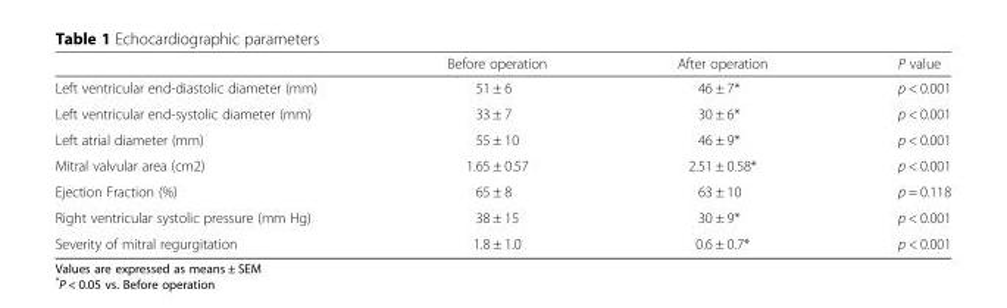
<table><thead><tr><td></td><td>Before operation</td><td>After operation</td><td>P value</td></tr></thead><tbody><tr><td>Left ventricular end-diastolic diameter (mm)</td><td>51 ± 6</td><td>46 ± 7*</td><td>p &lt; 0.001</td></tr><tr><td>Left ventricular end-systolic diameter (mm)</td><td>33 ± 7</td><td>30 ± 6*</td><td>p &lt; 0.001</td></tr><tr><td>Left atrial diameter (mm)</td><td>55 ± 10</td><td>46 ± 9*</td><td>p &lt; 0.001</td></tr><tr><td>Mitral valvular area (cm2)</td><td>1.65 ± 0.57</td><td>2.51 ± 0.58*</td><td>p &lt; 0.001</td></tr><tr><td>Ejection Fraction (%)</td><td>65 ± 8</td><td>63 ± 10</td><td>p = 0.118</td></tr><tr><td>Right ventricular systolic pressure (mm Hg)</td><td>38 ± 15</td><td>30 ± 9*</td><td>p &lt; 0.001</td></tr><tr><td>Severity of mitral regurgitation</td><td>1.8 ± 1.0</td><td>0.6 ± 0.7*</td><td>p &lt; 0.001</td></tr></tbody></table>